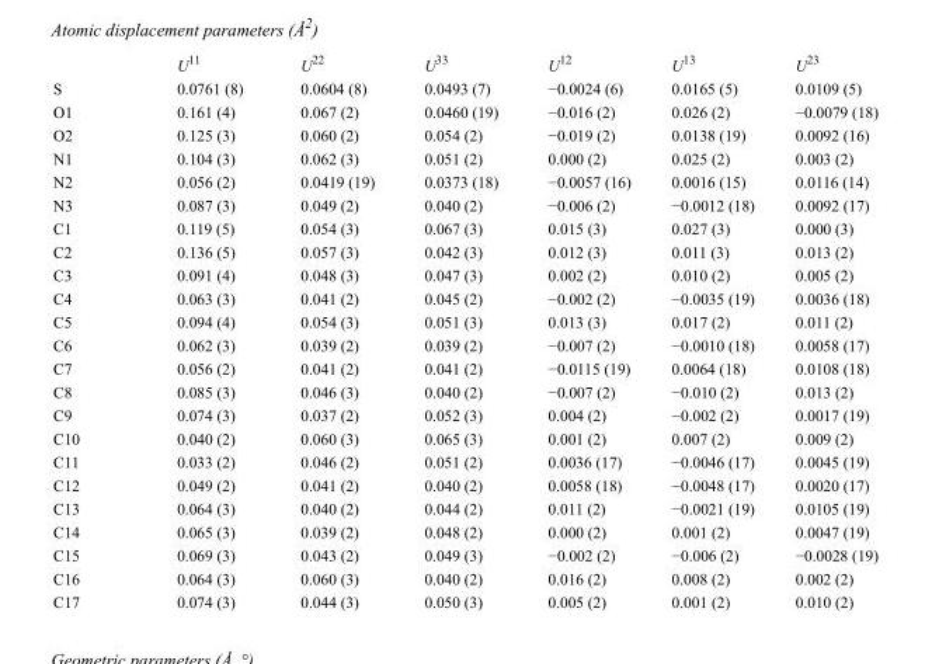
<table><thead><tr><td></td><td>U<sup>11</sup></td><td>U<sup>22</sup></td><td>U<sup>33</sup></td><td>U<sup>12</sup></td><td>U<sup>13</sup></td><td>U<sup>23</sup></td></tr></thead><tbody><tr><td>S</td><td>0.0761 (8)</td><td>0.0604 (8)</td><td>0.0493 (7)</td><td>−0.0024 (6)</td><td>0.0165 (5)</td><td>0.0109 (5)</td></tr><tr><td>O1</td><td>0.161 (4)</td><td>0.067 (2)</td><td>0.0460 (19)</td><td>−0.016 (2)</td><td>0.026 (2)</td><td>−0.0079 (18)</td></tr><tr><td>O2</td><td>0.125 (3)</td><td>0.060 (2)</td><td>0.054 (2)</td><td>−0.019 (2)</td><td>0.0138 (19)</td><td>0.0092 (16)</td></tr><tr><td>N1</td><td>0.104 (3)</td><td>0.062 (3)</td><td>0.051 (2)</td><td>0.000 (2)</td><td>0.025 (2)</td><td>0.003 (2)</td></tr><tr><td>N2</td><td>0.056 (2)</td><td>0.0419 (19)</td><td>0.0373 (18)</td><td>−0.0057 (16)</td><td>0.0016 (15)</td><td>0.0116 (14)</td></tr><tr><td>N3</td><td>0.087 (3)</td><td>0.049 (2)</td><td>0.040 (2)</td><td>−0.006 (2)</td><td>−0.0012 (18)</td><td>0.0092 (17)</td></tr><tr><td>C1</td><td>0.119 (5)</td><td>0.054 (3)</td><td>0.067 (3)</td><td>0.015 (3)</td><td>0.027 (3)</td><td>0.000 (3)</td></tr><tr><td>C2</td><td>0.136 (5)</td><td>0.057 (3)</td><td>0.042 (3)</td><td>0.012 (3)</td><td>0.011 (3)</td><td>0.013 (2)</td></tr><tr><td>C3</td><td>0.091 (4)</td><td>0.048 (3)</td><td>0.047 (3)</td><td>0.002 (2)</td><td>0.010 (2)</td><td>0.005 (2)</td></tr><tr><td>C4</td><td>0.063 (3)</td><td>0.041 (2)</td><td>0.045 (2)</td><td>−0.002 (2)</td><td>−0.0035 (19)</td><td>0.0036 (18)</td></tr><tr><td>C5</td><td>0.094 (4)</td><td>0.054 (3)</td><td>0.051 (3)</td><td>0.013 (3)</td><td>0.017 (2)</td><td>0.011 (2)</td></tr><tr><td>C6</td><td>0.062 (3)</td><td>0.039 (2)</td><td>0.039 (2)</td><td>−0.007 (2)</td><td>−0.0010 (18)</td><td>0.0058 (17)</td></tr><tr><td>C7</td><td>0.056 (2)</td><td>0.041 (2)</td><td>0.041 (2)</td><td>−0.0115 (19)</td><td>0.0064 (18)</td><td>0.0108 (18)</td></tr><tr><td>C8</td><td>0.085 (3)</td><td>0.046 (3)</td><td>0.040 (2)</td><td>−0.007 (2)</td><td>−0.010 (2)</td><td>0.013 (2)</td></tr><tr><td>C9</td><td>0.074 (3)</td><td>0.037 (2)</td><td>0.052 (3)</td><td>0.004 (2)</td><td>−0.002 (2)</td><td>0.0017 (19)</td></tr><tr><td>C10</td><td>0.040 (2)</td><td>0.060 (3)</td><td>0.065 (3)</td><td>0.001 (2)</td><td>0.007 (2)</td><td>0.009 (2)</td></tr><tr><td>C11</td><td>0.033 (2)</td><td>0.046 (2)</td><td>0.051 (2)</td><td>0.0036 (17)</td><td>−0.0046 (17)</td><td>0.0045 (19)</td></tr><tr><td>C12</td><td>0.049 (2)</td><td>0.041 (2)</td><td>0.040 (2)</td><td>0.0058 (18)</td><td>−0.0048 (17)</td><td>0.0020 (17)</td></tr><tr><td>C13</td><td>0.064 (3)</td><td>0.040 (2)</td><td>0.044 (2)</td><td>0.011 (2)</td><td>−0.0021 (19)</td><td>0.0105 (19)</td></tr><tr><td>C14</td><td>0.065 (3)</td><td>0.039 (2)</td><td>0.048 (2)</td><td>0.000 (2)</td><td>0.001 (2)</td><td>0.0047 (19)</td></tr><tr><td>C15</td><td>0.069 (3)</td><td>0.043 (2)</td><td>0.049 (3)</td><td>−0.002 (2)</td><td>−0.006 (2)</td><td>−0.0028 (19)</td></tr><tr><td>C16</td><td>0.064 (3)</td><td>0.060 (3)</td><td>0.040 (2)</td><td>0.016 (2)</td><td>0.008 (2)</td><td>0.002 (2)</td></tr><tr><td>C17</td><td>0.074 (3)</td><td>0.044 (3)</td><td>0.050 (3)</td><td>0.005 (2)</td><td>0.001 (2)</td><td>0.010 (2)</td></tr></tbody></table>